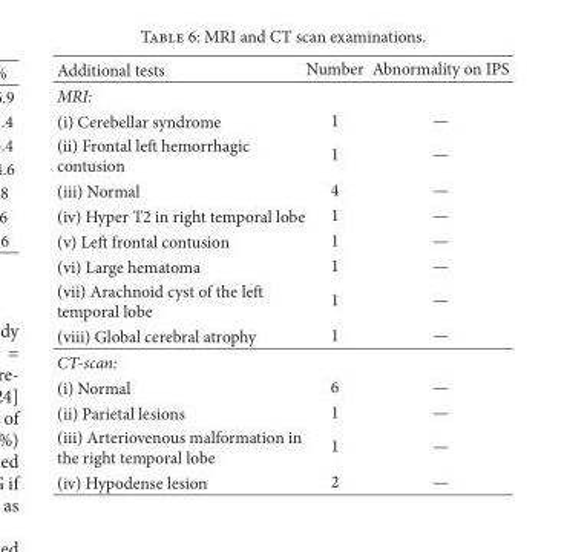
<table><thead><tr><td>Additional tests</td><td>Number</td><td>Abnormality on IPS</td></tr></thead><tbody><tr><td colspan="3">MRI:</td></tr><tr><td>(i) Cerebellar syndrome</td><td>1</td><td>—</td></tr><tr><td>(ii) Frontal left hemorrhagic contusion</td><td>1</td><td>—</td></tr><tr><td>(iii) Normal</td><td>4</td><td>—</td></tr><tr><td>(iv) Hyper T2 in right temporal lobe</td><td>1</td><td>—</td></tr><tr><td>(v) Left frontal contusion</td><td>1</td><td>—</td></tr><tr><td>(vi) Large hematoma</td><td>1</td><td>—</td></tr><tr><td>(vii) Arachnoid cyst of the left temporal lobe</td><td>1</td><td>—</td></tr><tr><td>(viii) Global cerebral atrophy</td><td>1</td><td>—</td></tr><tr><td colspan="3">CT-scan:</td></tr><tr><td>(i) Normal</td><td>6</td><td>—</td></tr><tr><td>(ii) Parietal lesions</td><td>1</td><td>—</td></tr><tr><td>(iii) Arteriovenous malformation in the right temporal lobe</td><td>1</td><td>—</td></tr><tr><td>(iv) Hypodense lesion</td><td>2</td><td>—</td></tr></tbody></table>